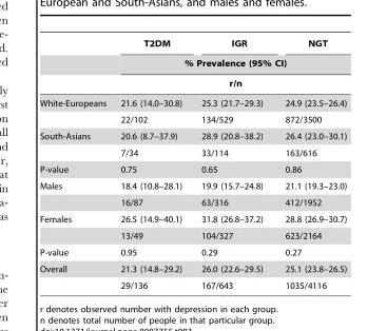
<table><thead><tr><td rowspan="3"></td><td>T2DM</td><td>IGR</td><td>NGT</td></tr><tr><td rowspan="2" colspan="3">% Prevalence (95% CI) r/n</td></tr><tr></tr></thead><tbody><tr><td rowspan="2">White-Europeans</td><td>21.6 (14.0–30.8)</td><td>25.3 (21.7–29.3)</td><td>24.9 (23.5–26.4)</td></tr><tr><td>22/102</td><td>134/529</td><td>872/3500</td></tr><tr><td rowspan="2">South-Asians</td><td>20.6 (8.7–37.9)</td><td>28.9 (20.8–38.2)</td><td>26.4 (23.0–30.1)</td></tr><tr><td>7/34</td><td>33/114</td><td>163/616</td></tr><tr><td>P-value</td><td>0.75</td><td>0.65</td><td>0.86</td></tr><tr><td rowspan="2">Males</td><td>18.4 (10.8–28.1)</td><td>19.9 (15.7–24.8)</td><td>21.1 (19.3–23.0)</td></tr><tr><td>16/87</td><td>63/316</td><td>412/1952</td></tr><tr><td rowspan="2">Females</td><td>26.5 (14.9–40.1)</td><td>31.8 (26.8–37.2)</td><td>28.8 (26.9–30.7)</td></tr><tr><td>13/49</td><td>104/327</td><td>623/2164</td></tr><tr><td>P-value</td><td>0.95</td><td>0.29</td><td>0.27</td></tr><tr><td rowspan="2">Overall</td><td>21.3 (14.8–29.2)</td><td>26.0 (22.6–29.5)</td><td>25.1 (23.8–26.5)</td></tr><tr><td>29/136</td><td>167/643</td><td>1035/4116</td></tr></tbody></table>